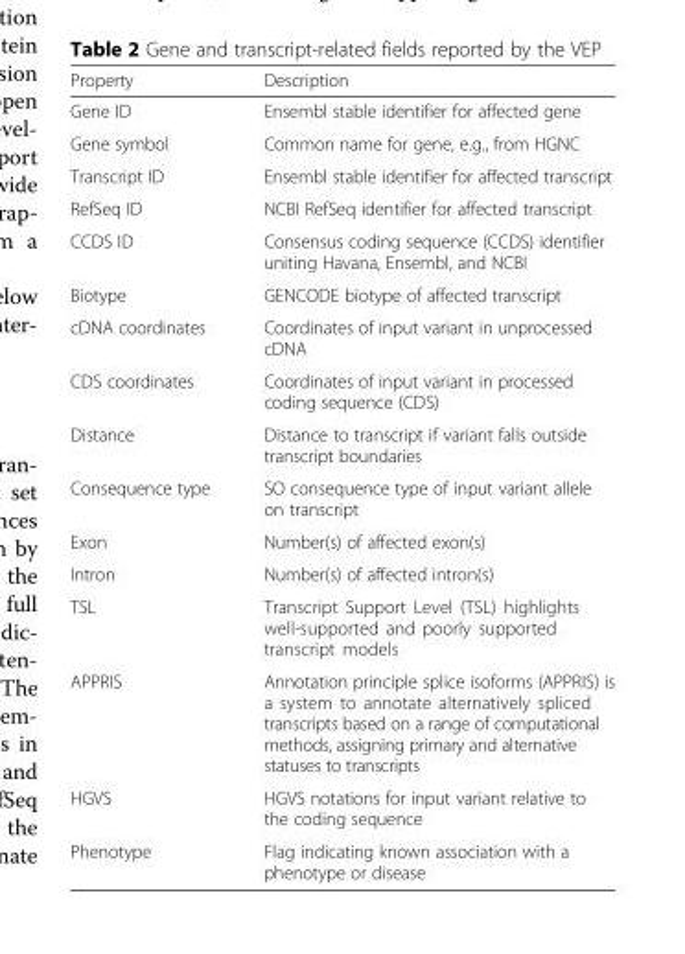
<table><thead><tr><td>Property</td><td>Description</td></tr></thead><tbody><tr><td>Gene ID</td><td>Ensembl stable identifier for affected gene</td></tr><tr><td>Gene symbol</td><td>Common name for gene, e.g., from HGNC</td></tr><tr><td>Transcript ID</td><td>Ensembl stable identifier for affected transcript</td></tr><tr><td>RefSeq ID</td><td>NCBI RefSeq identifier for affected transcript</td></tr><tr><td>CCDS ID</td><td>Consensus coding sequence (CCDS) identifier uniting Havana, Ensembl, and NCBI</td></tr><tr><td>Biotype</td><td>GENCODE biotype of affected transcript</td></tr><tr><td>cDNA coordinates</td><td>Coordinates of input variant in unprocessed cDNA</td></tr><tr><td>CDS coordinates</td><td>Coordinates of input variant in processed coding sequence (CDS)</td></tr><tr><td>Distance</td><td>Distance to transcript if variant falls outside transcript boundaries</td></tr><tr><td>Consequence type</td><td>SO consequence type of input variant allele on transcript</td></tr><tr><td>Exon</td><td>Number(s) of affected exon(s)</td></tr><tr><td>Intron</td><td>Number(s) of affected intron(s)</td></tr><tr><td>TSL</td><td>Transcript Support Level (TSL) highlights well-supported and poorly supported transcript models</td></tr><tr><td>APPRIS</td><td>Annotation principle splice isoforms (APPRIS) is a system to annotate alternatively spliced transcripts based on a range of computational methods, assigning primary and alternative statuses to transcripts</td></tr><tr><td>HGVS</td><td>HGVS notations for input variant relative to the coding sequence</td></tr><tr><td>Phenotype</td><td>Flag indicating known association with a phenotype or disease</td></tr></tbody></table>